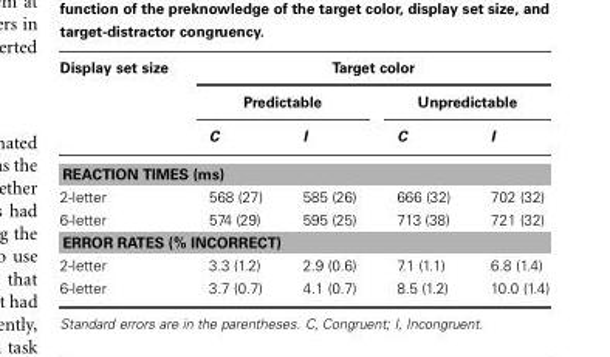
<table><thead><tr><td rowspan="3">Display set size</td><td colspan="4">Target color</td></tr><tr><td colspan="2">Predictable</td><td colspan="2">Unpredictable</td></tr><tr><td>C</td><td>I</td><td>C</td><td>I</td></tr></thead><tbody><tr><td colspan="5">REACTION TIMES (ms)</td></tr><tr><td>2-letter</td><td>568 (27)</td><td>585 (26)</td><td>666 (32)</td><td>702 (32)</td></tr><tr><td>6-letter</td><td>574 (29)</td><td>595 (25)</td><td>713 (38)</td><td>721 (32)</td></tr><tr><td colspan="5">ERROR RATES (% INCORRECT)</td></tr><tr><td>2-letter</td><td>3.3 (1.2)</td><td>2.9 (0.6)</td><td>7.1 (1.1)</td><td>6.8 (1.4)</td></tr><tr><td>6-letter</td><td>3.7 (0.7)</td><td>4.1 (0.7)</td><td>8.5 (1.2)</td><td>10.0 (1.4)</td></tr></tbody></table>